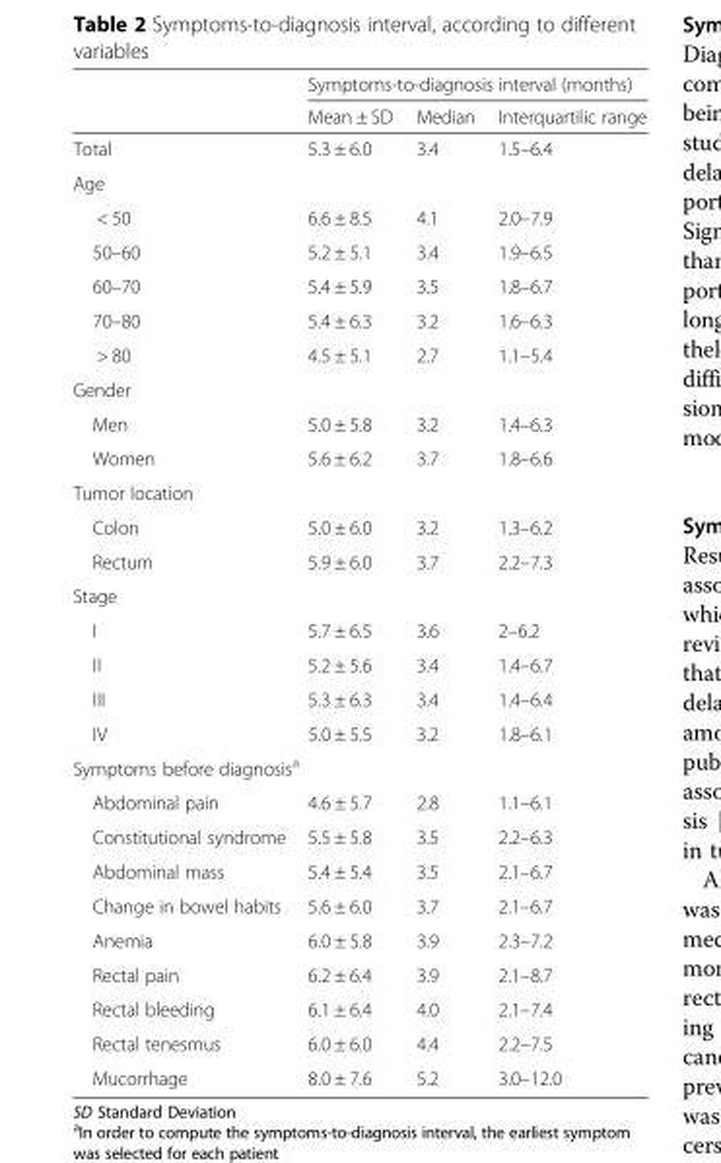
<table><thead><tr><td rowspan="2"></td><td colspan="3">Symptoms-to-diagnosis interval (months)</td></tr><tr><td>Mean ± SD</td><td>Median</td><td>Interquartilic range</td></tr></thead><tbody><tr><td>Total</td><td>5.3 ± 6.0</td><td>3.4</td><td>1.5–6.4</td></tr><tr><td colspan="4">Age</td></tr><tr><td>&lt; 50</td><td>6.6 ± 8.5</td><td>4.1</td><td>2.0–7.9</td></tr><tr><td>50–60</td><td>5.2 ± 5.1</td><td>3.4</td><td>1.9–6.5</td></tr><tr><td>60–70</td><td>5.4 ± 5.9</td><td>3.5</td><td>1.8–6.7</td></tr><tr><td>70–80</td><td>5.4 ± 6.3</td><td>3.2</td><td>1.6–6.3</td></tr><tr><td>&gt; 80</td><td>4.5 ± 5.1</td><td>2.7</td><td>1.1–5.4</td></tr><tr><td colspan="4">Gender</td></tr><tr><td>Men</td><td>5.0 ± 5.8</td><td>3.2</td><td>1.4–6.3</td></tr><tr><td>Women</td><td>5.6 ± 6.2</td><td>3.7</td><td>1.8–6.6</td></tr><tr><td colspan="4">Tumor location</td></tr><tr><td>Colon</td><td>5.0 ± 6.0</td><td>3.2</td><td>1.3–6.2</td></tr><tr><td>Rectum</td><td>5.9 ± 6.0</td><td>3.7</td><td>2.2–7.3</td></tr><tr><td colspan="4">Stage</td></tr><tr><td>I</td><td>5.7 ± 6.5</td><td>3.6</td><td>2–6.2</td></tr><tr><td>II</td><td>5.2 ± 5.6</td><td>3.4</td><td>1.4–6.7</td></tr><tr><td>III</td><td>5.3 ± 6.3</td><td>3.4</td><td>1.4–6.4</td></tr><tr><td>IV</td><td>5.0 ± 5.5</td><td>3.2</td><td>1.8–6.1</td></tr><tr><td colspan="4">Symptoms before diagnosis<sup>a</sup></td></tr><tr><td>Abdominal pain</td><td>4.6 ± 5.7</td><td>2.8</td><td>1.1–6.1</td></tr><tr><td>Constitutional syndrome</td><td>5.5 ± 5.8</td><td>3.5</td><td>2.2–6.3</td></tr><tr><td>Abdominal mass</td><td>5.4 ± 5.4</td><td>3.5</td><td>2.1–6.7</td></tr><tr><td>Change in bowel habits</td><td>5.6 ± 6.0</td><td>3.7</td><td>2.1–6.7</td></tr><tr><td>Anemia</td><td>6.0 ± 5.8</td><td>3.9</td><td>2.3–7.2</td></tr><tr><td>Rectal pain</td><td>6.2 ± 6.4</td><td>3.9</td><td>2.1–8.7</td></tr><tr><td>Rectal bleeding</td><td>6.1 ± 6.4</td><td>4.0</td><td>2.1–7.4</td></tr><tr><td>Rectal tenesmus</td><td>6.0 ± 6.0</td><td>4.4</td><td>2.2–7.5</td></tr><tr><td>Mucorrhage</td><td>8.0 ± 7.6</td><td>5.2</td><td>3.0–12.0</td></tr></tbody></table>